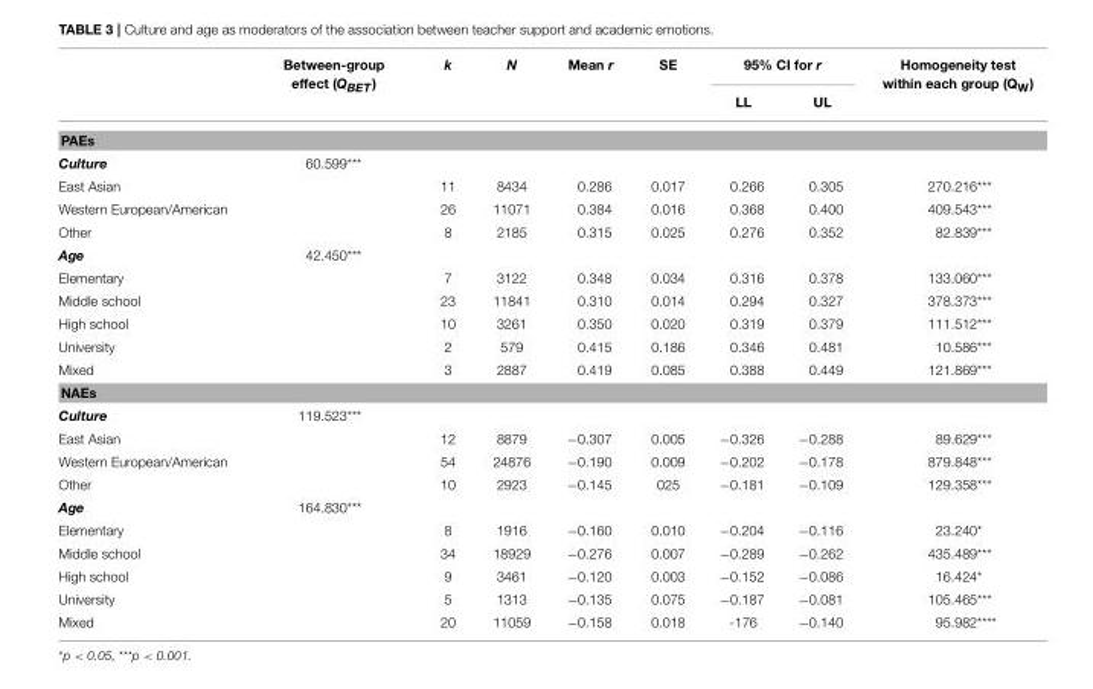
<table><thead><tr><td rowspan="2"></td><td rowspan="2">Between-group effect (QBET)</td><td rowspan="2">k</td><td rowspan="2">N</td><td rowspan="2">Mean r</td><td rowspan="2">SE</td><td colspan="2">95% CI for r</td><td rowspan="2">Homogeneity test within each group (Q<sub>W</sub>)</td></tr><tr><td>LL</td><td>UL</td></tr></thead><tbody><tr><td colspan="9">PAEs</td></tr><tr><td>Culture</td><td>60.599***</td><td></td><td></td><td></td><td></td><td></td><td></td><td></td></tr><tr><td>East Asian</td><td></td><td>11</td><td>8434</td><td>0.286</td><td>0.017</td><td>0.266</td><td>0.305</td><td>270.216***</td></tr><tr><td>Western European/American</td><td></td><td>26</td><td>11071</td><td>0.384</td><td>0.016</td><td>0.368</td><td>0.400</td><td>409.543***</td></tr><tr><td>Other</td><td></td><td>8</td><td>2185</td><td>0.315</td><td>0.025</td><td>0.276</td><td>0.352</td><td>82.839***</td></tr><tr><td>Age</td><td>42.450***</td><td></td><td></td><td></td><td></td><td></td><td></td><td></td></tr><tr><td>Elementary</td><td></td><td>7</td><td>3122</td><td>0.348</td><td>0.034</td><td>0.316</td><td>0.378</td><td>133.060***</td></tr><tr><td>Middle school</td><td></td><td>23</td><td>11841</td><td>0.310</td><td>0.014</td><td>0.294</td><td>0.327</td><td>378.373***</td></tr><tr><td>High school</td><td></td><td>10</td><td>3261</td><td>0.350</td><td>0.020</td><td>0.319</td><td>0.379</td><td>111.512***</td></tr><tr><td>University</td><td></td><td>2</td><td>579</td><td>0.415</td><td>0.186</td><td>0.346</td><td>0.481</td><td>10.586***</td></tr><tr><td>Mixed</td><td></td><td>3</td><td>2887</td><td>0.419</td><td>0.085</td><td>0.388</td><td>0.449</td><td>121.869***</td></tr><tr><td colspan="9">NAEs</td></tr><tr><td>Culture</td><td>119.523***</td><td></td><td></td><td></td><td></td><td></td><td></td><td></td></tr><tr><td>East Asian</td><td></td><td>12</td><td>8879</td><td>−0.307</td><td>0.005</td><td>−0.326</td><td>−0.288</td><td>89.629***</td></tr><tr><td>Western European/American</td><td></td><td>54</td><td>24876</td><td>−0.190</td><td>0.009</td><td>−0.202</td><td>−0.178</td><td>879.848***</td></tr><tr><td>Other</td><td></td><td>10</td><td>2923</td><td>−0.145</td><td>025</td><td>−0.181</td><td>−0.109</td><td>129.358***</td></tr><tr><td>Age</td><td>164.830***</td><td></td><td></td><td></td><td></td><td></td><td></td><td></td></tr><tr><td>Elementary</td><td></td><td>8</td><td>1916</td><td>−0.160</td><td>0.010</td><td>−0.204</td><td>−0.116</td><td>23.240*</td></tr><tr><td>Middle school</td><td></td><td>34</td><td>18929</td><td>−0.276</td><td>0.007</td><td>−0.289</td><td>−0.262</td><td>435.489***</td></tr><tr><td>High school</td><td></td><td>9</td><td>3461</td><td>−0.120</td><td>0.003</td><td>−0.152</td><td>−0.086</td><td>16.424*</td></tr><tr><td>University</td><td></td><td>5</td><td>1313</td><td>−0.135</td><td>0.075</td><td>−0.187</td><td>−0.081</td><td>105.465***</td></tr><tr><td>Mixed</td><td></td><td>20</td><td>11059</td><td>−0.158</td><td>0.018</td><td>-176</td><td>−0.140</td><td>95.982****</td></tr></tbody></table>